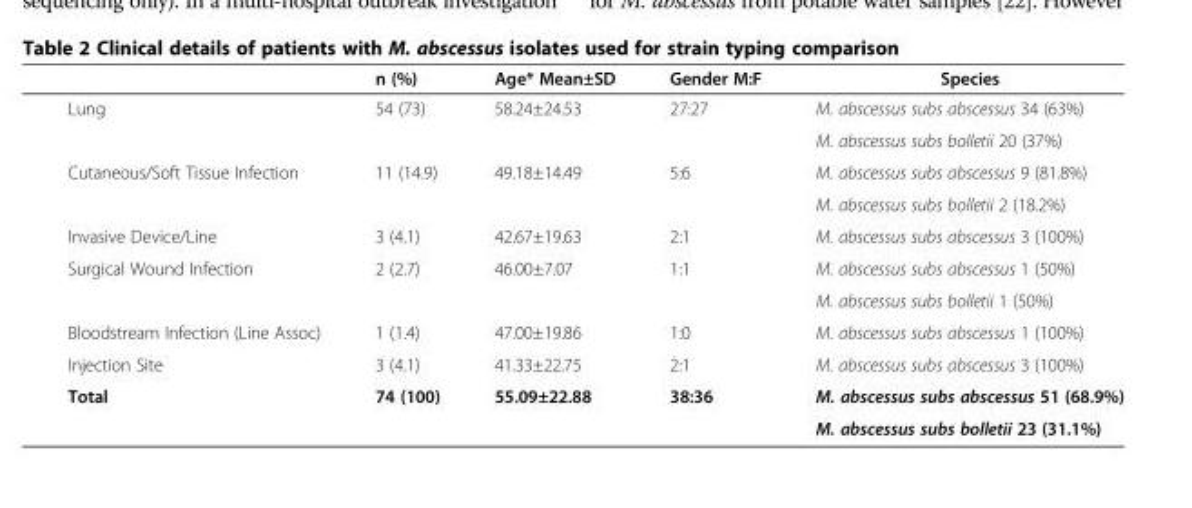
<table><thead><tr><td></td><td>n (%)</td><td>Age* Mean±SD</td><td>Gender M:F</td><td>Species</td></tr></thead><tbody><tr><td rowspan="2">Lung</td><td rowspan="2">54 (73)</td><td rowspan="2">58.24±24.53</td><td rowspan="2">27:27</td><td>M. abscessus subs abscessus 34 (63%)</td></tr><tr><td>M. abscessus subs bolletii 20 (37%)</td></tr><tr><td rowspan="2">Cutaneous/Soft Tissue Infection</td><td rowspan="2">11 (14.9)</td><td rowspan="2">49.18±14.49</td><td rowspan="2">5:6</td><td>M. abscessus subs abscessus 9 (81.8%)</td></tr><tr><td>M. abscessus subs bolletii 2 (18.2%)</td></tr><tr><td>Invasive Device/Line</td><td>3 (4.1)</td><td>42.67±19.63</td><td>2:1</td><td>M. abscessus subs abscessus 3 (100%)</td></tr><tr><td rowspan="2">Surgical Wound Infection</td><td rowspan="2">2 (2.7)</td><td rowspan="2">46.00±7.07</td><td rowspan="2">1:1</td><td>M. abscessus subs abscessus 1 (50%)</td></tr><tr><td>M. abscessus subs bolletii 1 (50%)</td></tr><tr><td>Bloodstream Infection (Line Assoc)</td><td>1 (1.4)</td><td>47.00±19.86</td><td>1:0</td><td>M. abscessus subs abscessus 1 (100%)</td></tr><tr><td>Injection Site</td><td>3 (4.1)</td><td>41.33±22.75</td><td>2:1</td><td>M. abscessus subs abscessus 3 (100%)</td></tr><tr><td rowspan="2">Total</td><td rowspan="2">74 (100)</td><td rowspan="2">55.09±22.88</td><td rowspan="2">38:36</td><td>M. abscessus subs abscessus 51 (68.9%)</td></tr><tr><td>M. abscessus subs bolletii 23 (31.1%)</td></tr></tbody></table>